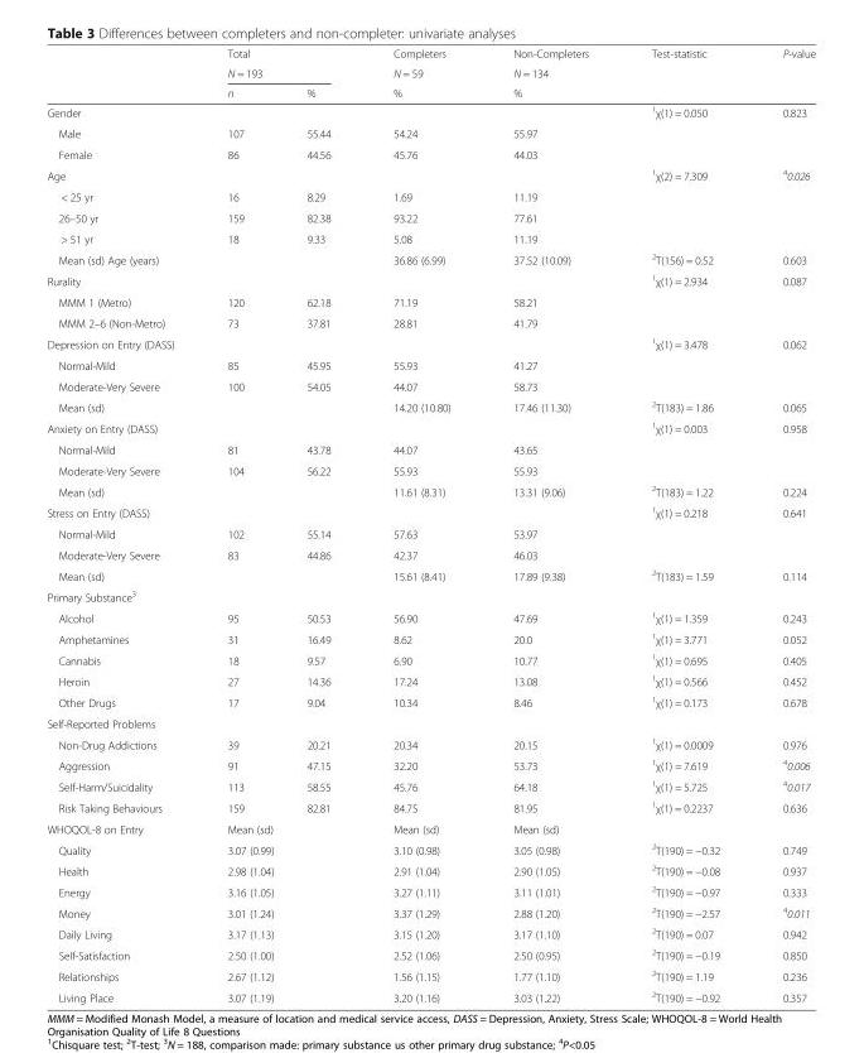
<table><thead><tr><td rowspan="3"></td><td rowspan="2" colspan="2">Total N = 193</td><td rowspan="3">Completers N = 59 %</td><td rowspan="3">Non-Completers N = 134 %</td><td rowspan="3">Test-statistic</td><td rowspan="3">P-value</td></tr><tr></tr><tr><td>n</td><td>%</td></tr></thead><tbody><tr><td colspan="5">Gender</td><td><sup>1</sup>χ(1) = 0.050</td><td>0.823</td></tr><tr><td>Male</td><td>107</td><td>55.44</td><td>54.24</td><td>55.97</td><td></td><td></td></tr><tr><td>Female</td><td>86</td><td>44.56</td><td>45.76</td><td>44.03</td><td></td><td></td></tr><tr><td colspan="5">Age</td><td><sup>1</sup>χ(2) = 7.309</td><td><sup>4</sup>0.026</td></tr><tr><td>&lt; 25 yr</td><td>16</td><td>8.29</td><td>1.69</td><td>11.19</td><td></td><td></td></tr><tr><td>26–50 yr</td><td>159</td><td>82.38</td><td>93.22</td><td>77.61</td><td></td><td></td></tr><tr><td>&gt; 51 yr</td><td>18</td><td>9.33</td><td>5.08</td><td>11.19</td><td></td><td></td></tr><tr><td>Mean (sd) Age (years)</td><td></td><td></td><td>36.86 (6.99)</td><td>37.52 (10.09)</td><td><sup>2</sup>T(156) = 0.52</td><td>0.603</td></tr><tr><td colspan="5">Rurality</td><td><sup>1</sup>χ(1) = 2.934</td><td>0.087</td></tr><tr><td>MMM 1 (Metro)</td><td>120</td><td>62.18</td><td>71.19</td><td>58.21</td><td></td><td></td></tr><tr><td>MMM 2–6 (Non-Metro)</td><td>73</td><td>37.81</td><td>28.81</td><td>41.79</td><td></td><td></td></tr><tr><td colspan="5">Depression on Entry (DASS)</td><td><sup>1</sup>χ(1) = 3.478</td><td>0.062</td></tr><tr><td>Normal-Mild</td><td>85</td><td>45.95</td><td>55.93</td><td>41.27</td><td></td><td></td></tr><tr><td>Moderate-Very Severe</td><td>100</td><td>54.05</td><td>44.07</td><td>58.73</td><td></td><td></td></tr><tr><td>Mean (sd)</td><td></td><td></td><td>14.20 (10.80)</td><td>17.46 (11.30)</td><td><sup>2</sup>T(183) = 1.86</td><td>0.065</td></tr><tr><td colspan="5">Anxiety on Entry (DASS)</td><td><sup>1</sup>χ(1) = 0.003</td><td>0.958</td></tr><tr><td>Normal-Mild</td><td>81</td><td>43.78</td><td>44.07</td><td>43.65</td><td></td><td></td></tr><tr><td>Moderate-Very Severe</td><td>104</td><td>56.22</td><td>55.93</td><td>55.93</td><td></td><td></td></tr><tr><td>Mean (sd)</td><td></td><td></td><td>11.61 (8.31)</td><td>13.31 (9.06)</td><td><sup>2</sup>T(183) = 1.22</td><td>0.224</td></tr><tr><td colspan="5">Stress on Entry (DASS)</td><td><sup>1</sup>χ(1) = 0.218</td><td>0.641</td></tr><tr><td>Normal-Mild</td><td>102</td><td>55.14</td><td>57.63</td><td>53.97</td><td></td><td></td></tr><tr><td>Moderate-Very Severe</td><td>83</td><td>44.86</td><td>42.37</td><td>46.03</td><td></td><td></td></tr><tr><td>Mean (sd)</td><td></td><td></td><td>15.61 (8.41)</td><td>17.89 (9.38)</td><td><sup>2</sup>T(183) = 1.59</td><td>0.114</td></tr><tr><td colspan="7">Primary Substance<sup>3</sup></td></tr><tr><td>Alcohol</td><td>95</td><td>50.53</td><td>56.90</td><td>47.69</td><td><sup>1</sup>χ(1) = 1.359</td><td>0.243</td></tr><tr><td>Amphetamines</td><td>31</td><td>16.49</td><td>8.62</td><td>20.0</td><td><sup>1</sup>χ(1) = 3.771</td><td>0.052</td></tr><tr><td>Cannabis</td><td>18</td><td>9.57</td><td>6.90</td><td>10.77</td><td><sup>1</sup>χ(1) = 0.695</td><td>0.405</td></tr><tr><td>Heroin</td><td>27</td><td>14.36</td><td>17.24</td><td>13.08</td><td><sup>1</sup>χ(1) = 0.566</td><td>0.452</td></tr><tr><td>Other Drugs</td><td>17</td><td>9.04</td><td>10.34</td><td>8.46</td><td><sup>1</sup>χ(1) = 0.173</td><td>0.678</td></tr><tr><td colspan="7">Self-Reported Problems</td></tr><tr><td>Non-Drug Addictions</td><td>39</td><td>20.21</td><td>20.34</td><td>20.15</td><td><sup>1</sup>χ(1) = 0.0009</td><td>0.976</td></tr><tr><td>Aggression</td><td>91</td><td>47.15</td><td>32.20</td><td>53.73</td><td><sup>1</sup>χ(1) = 7.619</td><td><sup>4</sup>0.006</td></tr><tr><td>Self-Harm/Suicidality</td><td>113</td><td>58.55</td><td>45.76</td><td>64.18</td><td><sup>1</sup>χ(1) = 5.725</td><td><sup>4</sup>0.017</td></tr><tr><td>Risk Taking Behaviours</td><td>159</td><td>82.81</td><td>84.75</td><td>81.95</td><td><sup>1</sup>χ(1) = 0.2237</td><td>0.636</td></tr><tr><td>WHOQOL-8 on Entry</td><td colspan="2">Mean (sd)</td><td>Mean (sd)</td><td>Mean (sd)</td><td></td><td></td></tr><tr><td>Quality</td><td colspan="2">3.07 (0.99)</td><td>3.10 (0.98)</td><td>3.05 (0.98)</td><td><sup>2</sup>T(190) = −0.32</td><td>0.749</td></tr><tr><td>Health</td><td colspan="2">2.98 (1.04)</td><td>2.91 (1.04)</td><td>2.90 (1.05)</td><td><sup>2</sup>T(190) = −0.08</td><td>0.937</td></tr><tr><td>Energy</td><td colspan="2">3.16 (1.05)</td><td>3.27 (1.11)</td><td>3.11 (1.01)</td><td><sup>2</sup>T(190) = −0.97</td><td>0.333</td></tr><tr><td>Money</td><td colspan="2">3.01 (1.24)</td><td>3.37 (1.29)</td><td>2.88 (1.20)</td><td><sup>2</sup>T(190) = −2.57</td><td><sup>4</sup>0.011</td></tr><tr><td>Daily Living</td><td colspan="2">3.17 (1.13)</td><td>3.15 (1.20)</td><td>3.17 (1.10)</td><td><sup>2</sup>T(190) = 0.07</td><td>0.942</td></tr><tr><td>Self-Satisfaction</td><td colspan="2">2.50 (1.00)</td><td>2.52 (1.06)</td><td>2.50 (0.95)</td><td><sup>2</sup>T(190) = −0.19</td><td>0.850</td></tr><tr><td>Relationships</td><td colspan="2">2.67 (1.12)</td><td>1.56 (1.15)</td><td>1.77 (1.10)</td><td><sup>2</sup>T(190) = 1.19</td><td>0.236</td></tr><tr><td>Living Place</td><td colspan="2">3.07 (1.19)</td><td>3.20 (1.16)</td><td>3.03 (1.22)</td><td><sup>2</sup>T(190) = −0.92</td><td>0.357</td></tr></tbody></table>